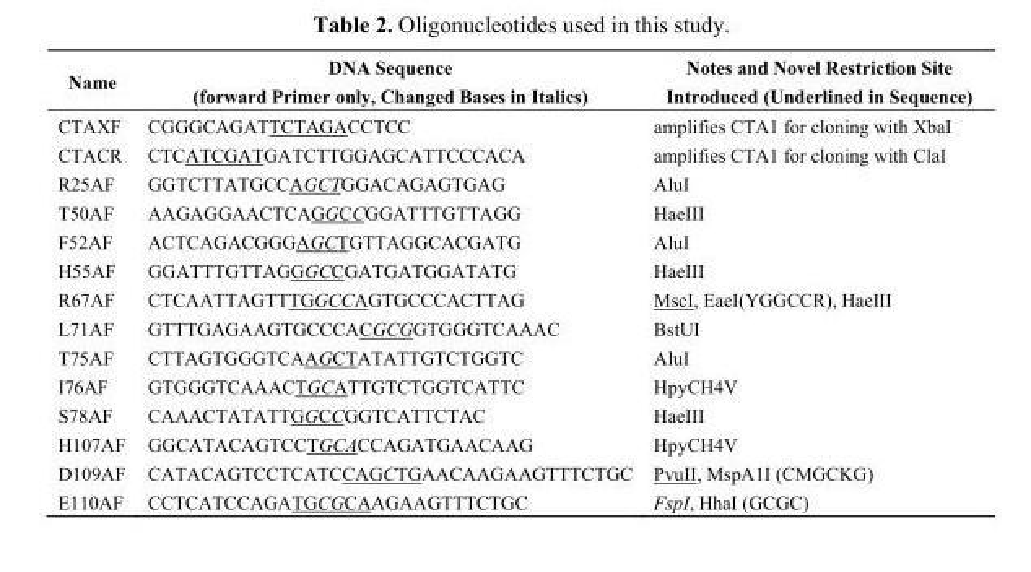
<table><thead><tr><td>Name</td><td>DNA Sequence (forward Primer only, Changed Bases in Italics)</td><td>Notes and Novel Restriction Site Introduced (Underlined in Sequence)</td></tr></thead><tbody><tr><td>CTAXF</td><td>CGGGCAGATTCTAGACCTCC</td><td>amplifies CTA1 for cloning with XbaI</td></tr><tr><td>CTACR</td><td>CTCATCGATGATCTTGGAGCATTCCCACA</td><td>amplifies CTA1 for cloning with ClaI</td></tr><tr><td>R25AF</td><td>GGTCTTATGCCAGCTGGACAGAGTGAG</td><td>AluI</td></tr><tr><td>T50AF</td><td>AAGAGGAACTCAGGCCGGATTTGTTAGG</td><td>HaeIII</td></tr><tr><td>F52AF</td><td>ACTCAGACGGGAGCTGTTAGGCACGATG</td><td>AluI</td></tr><tr><td>H55AF</td><td>GGATTTGTTAGGGCCGATGATGGATATG</td><td>HaeIII</td></tr><tr><td>R67AF</td><td>CTCAATTAGTTTGGCCAGTGCCCACTTAG</td><td>MscI, EaeI(YGGCCR), HaeIII</td></tr><tr><td>L71AF</td><td>GTTTGAGAAGTGCCCACGCGGTGGGTCAAAC</td><td>BstUI</td></tr><tr><td>T75AF</td><td>CTTAGTGGGTCAAGCTATATTGTCTGGTC</td><td>AluI</td></tr><tr><td>I76AF</td><td>GTGGGTCAAACTGCATTGTCTGGTCATTC</td><td>HpyCH4V</td></tr><tr><td>S78AF</td><td>CAAACTATATTGGCCGGTCATTCTAC</td><td>HaeIII</td></tr><tr><td>H107AF</td><td>GGCATACAGTCCTGCACCAGATGAACAAG</td><td>HpyCH4V</td></tr><tr><td>D109AF</td><td>CATACAGTCCTCATCCAGCTGAACAAGAAGTTTCTGC</td><td>PvuII, MspA1I (CMGCKG)</td></tr><tr><td>E110AF</td><td>CCTCATCCAGATGCGCAAGAAGTTTCTGC</td><td>FspI, HhaI (GCGC)</td></tr></tbody></table>